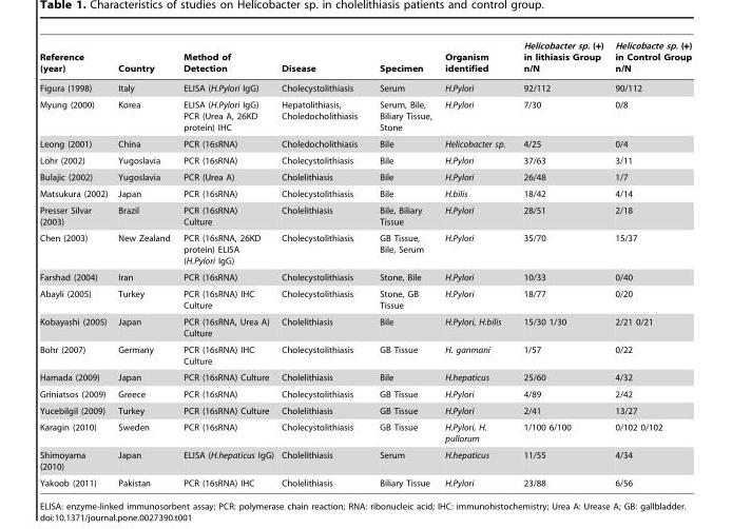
<table><thead><tr><td>Reference (year)</td><td>Country</td><td>Method of Detection</td><td>Disease</td><td>Specimen</td><td>Organism identified</td><td>Helicobacter sp. (+) in lithiasis Group n/N</td><td>Helicobacte sp. (+) in Control Group n/N</td></tr></thead><tbody><tr><td>Figura (1998)</td><td>Italy</td><td>ELISA (H.Pylori IgG)</td><td>Cholecystolithiasis</td><td>Serum</td><td>H.Pylori</td><td>92/112</td><td>90/112</td></tr><tr><td>Myung (2000)</td><td>Korea</td><td>ELISA (H.Pylori IgG) PCR (Urea A, 26KD protein) IHC</td><td>Hepatolithiasis, Choledocholithiasis</td><td>Serum, Bile, Biliary Tissue, Stone</td><td>H.Pylori</td><td>7/30</td><td>0/8</td></tr><tr><td>Leong (2001)</td><td>China</td><td>PCR (16sRNA)</td><td>Choledocholithiasis</td><td>Bile</td><td>Helicobacter sp.</td><td>4/25</td><td>0/4</td></tr><tr><td>Lo¨hr (2002)</td><td>Yugoslavia</td><td>PCR (16sRNA)</td><td>Cholecystolithiasis</td><td>Bile</td><td>H.Pylori</td><td>37/63</td><td>3/11</td></tr><tr><td>Bulajic (2002)</td><td>Yugoslavia</td><td>PCR (Urea A)</td><td>Cholelithiasis</td><td>Bile</td><td>H.Pylori</td><td>26/48</td><td>1/7</td></tr><tr><td>Matsukura (2002)</td><td>Japan</td><td>PCR (16sRNA)</td><td>Cholecystolithiasis</td><td>Bile</td><td>H.bilis</td><td>18/42</td><td>4/14</td></tr><tr><td>Presser Silvar (2003)</td><td>Brazil</td><td>PCR (16sRNA) Culture</td><td>Cholelithiasis</td><td>Bile, Biliary Tissue</td><td>H.Pylori</td><td>28/51</td><td>2/18</td></tr><tr><td>Chen (2003)</td><td>New Zealand</td><td>PCR (16sRNA, 26KD protein) ELISA (H.Pylori IgG)</td><td>Cholecystolithiasis</td><td>GB Tissue, Bile, Serum</td><td>H.Pylori</td><td>35/70</td><td>15/37</td></tr><tr><td>Farshad (2004)</td><td>Iran</td><td>PCR (16sRNA)</td><td>Cholecystolithiasis</td><td>Stone, Bile</td><td>H.Pylori</td><td>10/33</td><td>0/40</td></tr><tr><td>Abayli (2005)</td><td>Turkey</td><td>PCR (16sRNA) IHC Culture</td><td>Cholecystolithiasis</td><td>Stone, GB Tissue</td><td>H.Pylori</td><td>18/77</td><td>0/20</td></tr><tr><td>Kobayashi (2005)</td><td>Japan</td><td>PCR (16sRNA, Urea A) Culture</td><td>Cholelithiasis</td><td>Bile</td><td>H.Pylori, H.bilis</td><td>15/30 1/30</td><td>2/21 0/21</td></tr><tr><td>Bohr (2007)</td><td>Germany</td><td>PCR (16sRNA) IHC Culture</td><td>Cholecystolithiasis</td><td>GB Tissue</td><td>H. ganmani</td><td>1/57</td><td>0/22</td></tr><tr><td>Hamada (2009)</td><td>Japan</td><td>PCR (16sRNA) Culture</td><td>Cholelithiasis</td><td>Bile</td><td>H.hepaticus</td><td>25/60</td><td>4/32</td></tr><tr><td>Griniatsos (2009)</td><td>Greece</td><td>PCR (16sRNA)</td><td>Cholecystolithiasis</td><td>GB Tissue</td><td>H.Pylori</td><td>4/89</td><td>2/42</td></tr><tr><td>Yucebilgil (2009)</td><td>Turkey</td><td>PCR (16sRNA) Culture</td><td>Cholelithiasis</td><td>GB Tissue</td><td>H.Pylori</td><td>2/41</td><td>13/27</td></tr><tr><td>Karagin (2010)</td><td>Sweden</td><td>PCR (16sRNA)</td><td>Cholecystolithiasis</td><td>GB Tissue</td><td>H.Pylori, H. pullorum</td><td>1/100 6/100</td><td>0/102 0/102</td></tr><tr><td>Shimoyama (2010)</td><td>Japan</td><td>ELISA (H.hepaticus IgG)</td><td>Cholelithiasis</td><td>Serum</td><td>H.hepaticus</td><td>11/55</td><td>4/34</td></tr><tr><td>Yakoob (2011)</td><td>Pakistan</td><td>PCR (16sRNA) IHC</td><td>Cholelithiasis</td><td>Biliary Tissue</td><td>H.Pylori</td><td>23/88</td><td>6/56</td></tr></tbody></table>